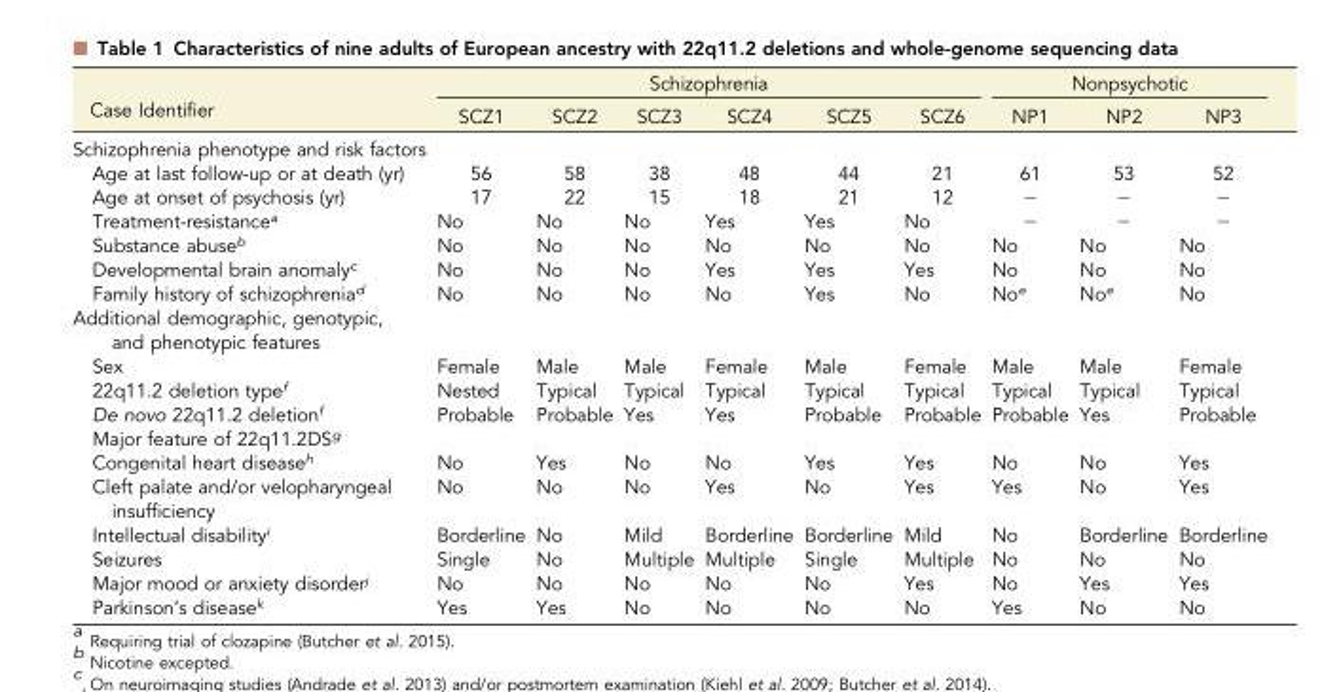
<table><thead><tr><td rowspan="2">Case Identifier</td><td colspan="6">Schizophrenia</td><td colspan="3">Nonpsychotic</td></tr><tr><td>SCZ1</td><td>SCZ2</td><td>SCZ3</td><td>SCZ4</td><td>SCZ5</td><td>SCZ6</td><td>NP1</td><td>NP2</td><td>NP3</td></tr></thead><tbody><tr><td colspan="10">Schizophrenia phenotype and risk factors</td></tr><tr><td>Age at last follow-up or at death (yr)</td><td>56</td><td>58</td><td>38</td><td>48</td><td>44</td><td>21</td><td>61</td><td>53</td><td>52</td></tr><tr><td>Age at onset of psychosis (yr)</td><td>17</td><td>22</td><td>15</td><td>18</td><td>21</td><td>12</td><td>−</td><td>−</td><td>−</td></tr><tr><td>Treatment-resistance<sup>a</sup></td><td>No</td><td>No</td><td>No</td><td>Yes</td><td>Yes</td><td>No</td><td>−</td><td>−</td><td>−</td></tr><tr><td>Substance abuse<sup>b</sup></td><td>No</td><td>No</td><td>No</td><td>No</td><td>No</td><td>No</td><td>No</td><td>No</td><td>No</td></tr><tr><td>Developmental brain anomaly<sup>c</sup></td><td>No</td><td>No</td><td>No</td><td>Yes</td><td>Yes</td><td>Yes</td><td>No</td><td>No</td><td>No</td></tr><tr><td>Family history of schizophrenia<sup>d</sup></td><td>No</td><td>No</td><td>No</td><td>No</td><td>Yes</td><td>No</td><td>No<sup>e</sup></td><td>No<sup>e</sup></td><td>No</td></tr><tr><td colspan="10">Additional demographic, genotypic, and phenotypic features</td></tr><tr><td>Sex</td><td>Female</td><td>Male</td><td>Male</td><td>Female</td><td>Male</td><td>Female</td><td>Male</td><td>Male</td><td>Female</td></tr><tr><td>22q11.2 deletion type<sup>f</sup></td><td>Nested</td><td>Typical</td><td>Typical</td><td>Typical</td><td>Typical</td><td>Typical</td><td>Typical</td><td>Typical</td><td>Typical</td></tr><tr><td>De novo 22q11.2 deletion<sup>f</sup></td><td>Probable</td><td>Probable</td><td>Yes</td><td>Yes</td><td>Probable</td><td>Probable</td><td>Probable</td><td>Yes</td><td>Probable</td></tr><tr><td colspan="10">Major feature of 22q11.2DS<sup>g</sup></td></tr><tr><td>Congenital heart disease<sup>h</sup></td><td>No</td><td>Yes</td><td>No</td><td>No</td><td>Yes</td><td>Yes</td><td>No</td><td>No</td><td>Yes</td></tr><tr><td>Cleft palate and/or velopharyngeal insufficiency</td><td>No</td><td>No</td><td>No</td><td>Yes</td><td>No</td><td>Yes</td><td>Yes</td><td>No</td><td>Yes</td></tr><tr><td>Intellectual disability<sup>i</sup></td><td>Borderline</td><td>No</td><td>Mild</td><td>Borderline</td><td>Borderline</td><td>Mild</td><td>No</td><td>Borderline</td><td>Borderline</td></tr><tr><td>Seizures</td><td>Single</td><td>No</td><td>Multiple</td><td>Multiple</td><td>Single</td><td>Multiple</td><td>No</td><td>No</td><td>No</td></tr><tr><td>Major mood or anxiety disorder<sup>j</sup></td><td>No</td><td>No</td><td>No</td><td>No</td><td>No</td><td>Yes</td><td>No</td><td>Yes</td><td>Yes</td></tr><tr><td>Parkinson’s disease<sup>k</sup></td><td>Yes</td><td>Yes</td><td>No</td><td>No</td><td>No</td><td>No</td><td>Yes</td><td>No</td><td>No</td></tr></tbody></table>